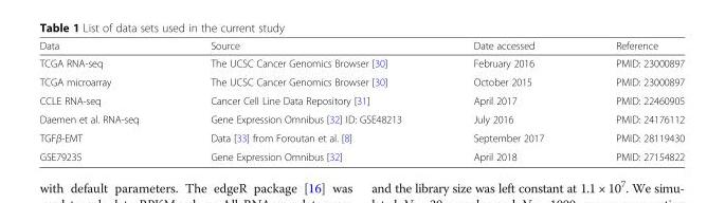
<table><thead><tr><td>Data</td><td>Source</td><td>Date accessed</td><td>Reference</td></tr></thead><tbody><tr><td>TCGA RNA-seq</td><td>The UCSC Cancer Genomics Browser [30]</td><td>February 2016</td><td>PMID: 23000897</td></tr><tr><td>TCGA microarray</td><td>The UCSC Cancer Genomics Browser [30]</td><td>October 2015</td><td>PMID: 23000897</td></tr><tr><td>CCLE RNA-seq</td><td>Cancer Cell Line Data Repository [31]</td><td>April 2017</td><td>PMID: 22460905</td></tr><tr><td>Daemen et al. RNA-seq</td><td>Gene Expression Omnibus [32] ID: GSE48213</td><td>July 2016</td><td>PMID: 24176112</td></tr><tr><td>TGFβ-EMT</td><td>Data [33] from Foroutan et al. [8]</td><td>September 2017</td><td>PMID: 28119430</td></tr><tr><td>GSE79235</td><td>Gene Expression Omnibus [32]</td><td>April 2018</td><td>PMID: 27154822</td></tr></tbody></table>